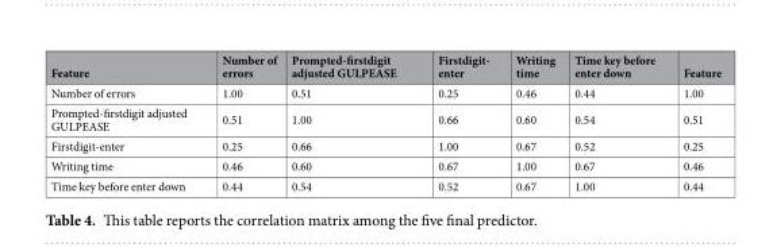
<table><thead><tr><td>Feature</td><td>Number of errors</td><td>Prompted-firstdigit adjusted GULPEASE</td><td>Firstdigit- enter</td><td>Writing time</td><td>Time key before enter down</td><td>Feature</td></tr></thead><tbody><tr><td>Number of errors</td><td>1.00</td><td>0.51</td><td>0.25</td><td>0.46</td><td>0.44</td><td>1.00</td></tr><tr><td>Prompted-firstdigit adjusted GULPEASE</td><td>0.51</td><td>1.00</td><td>0.66</td><td>0.60</td><td>0.54</td><td>0.51</td></tr><tr><td>Firstdigit-enter</td><td>0.25</td><td>0.66</td><td>1.00</td><td>0.67</td><td>0.52</td><td>0.25</td></tr><tr><td>Writing time</td><td>0.46</td><td>0.60</td><td>0.67</td><td>1.00</td><td>0.67</td><td>0.46</td></tr><tr><td>Time key before enter down</td><td>0.44</td><td>0.54</td><td>0.52</td><td>0.67</td><td>1.00</td><td>0.44</td></tr></tbody></table>